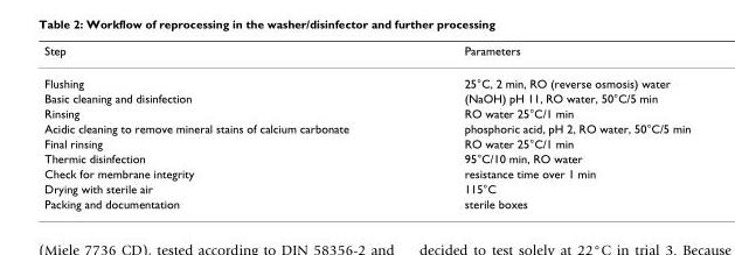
<table><thead><tr><td>Step</td><td>Parameters</td></tr></thead><tbody><tr><td>Flushing</td><td>25°C, 2 min, RO (reverse osmosis) water</td></tr><tr><td>Basic cleaning and disinfection</td><td>(NaOH) pH 11, RO water, 50°C/5 min</td></tr><tr><td>Rinsing</td><td>RO water 25°C/1 min</td></tr><tr><td>Acidic cleaning to remove mineral stains of calcium carbonate</td><td>phosphoric acid, pH 2, RO water, 50°C/5 min</td></tr><tr><td>Final rinsing</td><td>RO water 25°C/1 min</td></tr><tr><td>Thermic disinfection</td><td>95°C/10 min, RO water</td></tr><tr><td>Check for membrane integrity</td><td>resistance time over 1 min</td></tr><tr><td>Drying with sterile air</td><td>115°C</td></tr><tr><td>Packing and documentation</td><td>sterile boxes</td></tr></tbody></table>